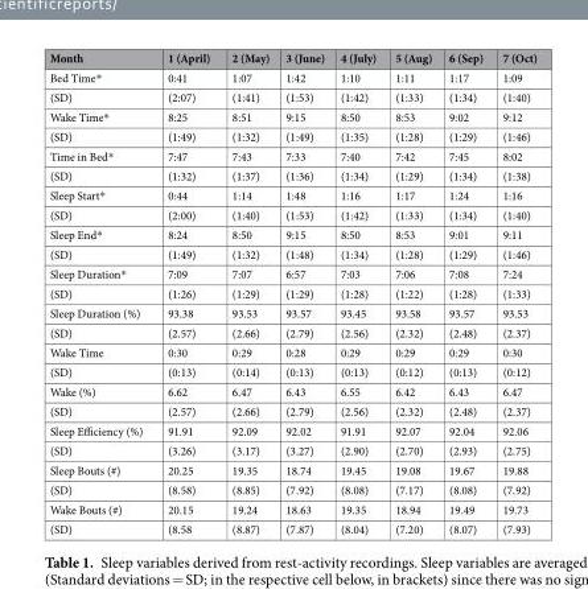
<table><thead><tr><td>Month</td><td>1 (April)</td><td>2 (May)</td><td>3 (June)</td><td>4 (July)</td><td>5 (Aug)</td><td>6 (Sep)</td><td>7 (Oct)</td></tr></thead><tbody><tr><td>Bed Time*</td><td>0:41</td><td>1:07</td><td>1:42</td><td>1:10</td><td>1:11</td><td>1:17</td><td>1:09</td></tr><tr><td>(SD)</td><td>(2:07)</td><td>(1:41)</td><td>(1:53)</td><td>(1:42)</td><td>(1:33)</td><td>(1:34)</td><td>(1:40)</td></tr><tr><td>Wake Time*</td><td>8:25</td><td>8:51</td><td>9:15</td><td>8:50</td><td>8:53</td><td>9:02</td><td>9:12</td></tr><tr><td>(SD)</td><td>(1:49)</td><td>(1:32)</td><td>(1:49)</td><td>(1:35)</td><td>(1:28)</td><td>(1:29)</td><td>(1:46)</td></tr><tr><td>Time in Bed*</td><td>7:47</td><td>7:43</td><td>7:33</td><td>7:40</td><td>7:42</td><td>7:45</td><td>8:02</td></tr><tr><td>(SD)</td><td>(1:32)</td><td>(1:37)</td><td>(1:36)</td><td>(1:34)</td><td>(1:29)</td><td>(1:34)</td><td>(1:38)</td></tr><tr><td>Sleep Start*</td><td>0:44</td><td>1:14</td><td>1:48</td><td>1:16</td><td>1:17</td><td>1:24</td><td>1:16</td></tr><tr><td>(SD)</td><td>(2:00)</td><td>(1:40)</td><td>(1:53)</td><td>(1:42)</td><td>(1:33)</td><td>(1:34)</td><td>(1:40)</td></tr><tr><td>Sleep End*</td><td>8:24</td><td>8:50</td><td>9:15</td><td>8:50</td><td>8:53</td><td>9:01</td><td>9:11</td></tr><tr><td>(SD)</td><td>(1:49)</td><td>(1:32)</td><td>(1:48)</td><td>(1:34)</td><td>(1:28)</td><td>(1:29)</td><td>(1:46)</td></tr><tr><td>Sleep Duration*</td><td>7:09</td><td>7:07</td><td>6:57</td><td>7:03</td><td>7:06</td><td>7:08</td><td>7:24</td></tr><tr><td>(SD)</td><td>(1:26)</td><td>(1:29)</td><td>(1:29)</td><td>(1:28)</td><td>(1:22)</td><td>(1:28)</td><td>(1:33)</td></tr><tr><td>Sleep Duration (%)</td><td>93.38</td><td>93.53</td><td>93.57</td><td>93.45</td><td>93.58</td><td>93.57</td><td>93.53</td></tr><tr><td>(SD)</td><td>(2.57)</td><td>(2.66)</td><td>(2.79)</td><td>(2.56)</td><td>(2.32)</td><td>(2.48)</td><td>(2.37)</td></tr><tr><td>Wake Time</td><td>0:30</td><td>0:29</td><td>0:28</td><td>0:29</td><td>0:29</td><td>0:29</td><td>0:30</td></tr><tr><td>(SD)</td><td>(0:13)</td><td>(0:14)</td><td>(0:13)</td><td>(0:13)</td><td>(0:12)</td><td>(0:13)</td><td>(0:12)</td></tr><tr><td>Wake (%)</td><td>6.62</td><td>6.47</td><td>6.43</td><td>6.55</td><td>6.42</td><td>6.43</td><td>6.47</td></tr><tr><td>(SD)</td><td>(2.57)</td><td>(2.66)</td><td>(2.79)</td><td>(2.56)</td><td>(2.32)</td><td>(2.48)</td><td>(2.37)</td></tr><tr><td>Sleep Efficiency (%)</td><td>91.91</td><td>92.09</td><td>92.02</td><td>91.91</td><td>92.07</td><td>92.04</td><td>92.06</td></tr><tr><td>(SD)</td><td>(3.26)</td><td>(3.17)</td><td>(3.27)</td><td>(2.90)</td><td>(2.70)</td><td>(2.93)</td><td>(2.75)</td></tr><tr><td>Sleep Bouts (#)</td><td>20.25</td><td>19.35</td><td>18.74</td><td>19.45</td><td>19.08</td><td>19.67</td><td>19.88</td></tr><tr><td>(SD)</td><td>(8.58)</td><td>(8.85)</td><td>(7.92)</td><td>(8.08)</td><td>(7.17)</td><td>(8.08)</td><td>(7.92)</td></tr><tr><td>Wake Bouts (#)</td><td>20.15</td><td>19.24</td><td>18.63</td><td>19.35</td><td>18.94</td><td>19.49</td><td>19.73</td></tr><tr><td>(SD)</td><td>(8.58</td><td>(8.87)</td><td>(7.87)</td><td>(8.04)</td><td>(7.20)</td><td>(8.07)</td><td>(7.93)</td></tr></tbody></table>